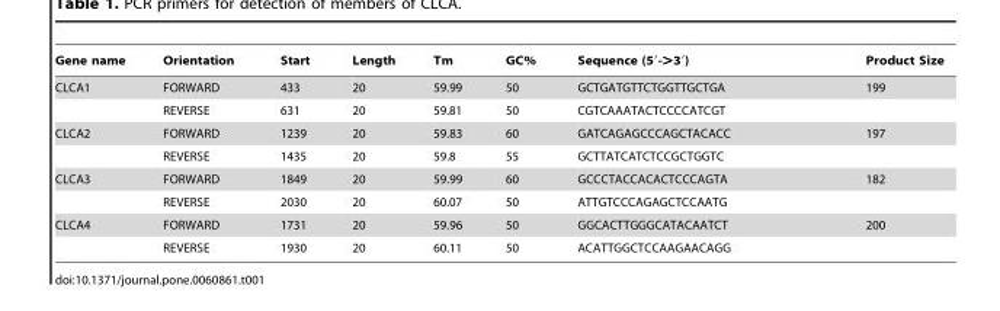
<table><thead><tr><td>Gene name</td><td>Orientation</td><td>Start</td><td>Length</td><td>Tm</td><td>GC%</td><td>Sequence (5′-&gt;3′)</td><td>Product Size</td></tr></thead><tbody><tr><td rowspan="2">CLCA1</td><td>FORWARD</td><td>433</td><td>20</td><td>59.99</td><td>50</td><td>GCTGATGTTCTGGTTGCTGA</td><td>199</td></tr><tr><td>REVERSE</td><td>631</td><td>20</td><td>59.81</td><td>50</td><td>CGTCAAATACTCCCCATCGT</td><td></td></tr><tr><td rowspan="2">CLCA2</td><td>FORWARD</td><td>1239</td><td>20</td><td>59.83</td><td>60</td><td>GATCAGAGCCCAGCTACACC</td><td>197</td></tr><tr><td>REVERSE</td><td>1435</td><td>20</td><td>59.8</td><td>55</td><td>GCTTATCATCTCCGCTGGTC</td><td></td></tr><tr><td rowspan="2">CLCA3</td><td>FORWARD</td><td>1849</td><td>20</td><td>59.99</td><td>60</td><td>GCCCTACCACACTCCCAGTA</td><td>182</td></tr><tr><td>REVERSE</td><td>2030</td><td>20</td><td>60.07</td><td>50</td><td>ATTGTCCCAGAGCTCCAATG</td><td></td></tr><tr><td rowspan="2">CLCA4</td><td>FORWARD</td><td>1731</td><td>20</td><td>59.96</td><td>50</td><td>GGCACTTGGGCATACAATCT</td><td>200</td></tr><tr><td>REVERSE</td><td>1930</td><td>20</td><td>60.11</td><td>50</td><td>ACATTGGCTCCAAGAACAGG</td><td></td></tr></tbody></table>